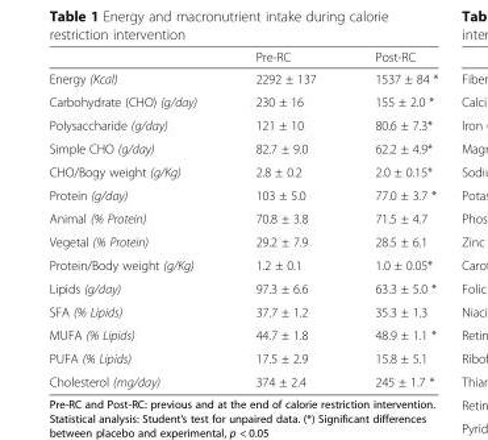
<table><thead><tr><td></td><td>Pre-RC</td><td>Post-RC</td></tr></thead><tbody><tr><td>Energy (Kcal)</td><td>2292 ± 137</td><td>1537 ± 84 *</td></tr><tr><td>Carbohydrate (CHO) (g/day)</td><td>230 ± 16</td><td>155 ± 2.0 *</td></tr><tr><td>Polysaccharide (g/day)</td><td>121 ± 10</td><td>80.6 ± 7.3*</td></tr><tr><td>Simple CHO (g/day)</td><td>82.7 ± 9.0</td><td>62.2 ± 4.9*</td></tr><tr><td>CHO/Bogy weight (g/Kg)</td><td>2.8 ± 0.2</td><td>2.0 ± 0.15*</td></tr><tr><td>Protein (g/day)</td><td>103 ± 5.0</td><td>77.0 ± 3.7 *</td></tr><tr><td>Animal (% Protein)</td><td>70.8 ± 3.8</td><td>71.5 ± 4.7</td></tr><tr><td>Vegetal (% Protein)</td><td>29.2 ± 7.9</td><td>28.5 ± 6.1</td></tr><tr><td>Protein/Body weight (g/Kg)</td><td>1.2 ± 0.1</td><td>1.0 ± 0.05*</td></tr><tr><td>Lipids (g/day)</td><td>97.3 ± 6.6</td><td>63.3 ± 5.0 *</td></tr><tr><td>SFA (% Lipids)</td><td>37.7 ± 1.2</td><td>35.3 ± 1.3</td></tr><tr><td>MUFA (% Lipids)</td><td>44.7 ± 1.8</td><td>48.9 ± 1.1 *</td></tr><tr><td>PUFA (% Lipids)</td><td>17.5 ± 2.9</td><td>15.8 ± 5.1</td></tr><tr><td>Cholesterol (mg/day)</td><td>374 ± 2.4</td><td>245 ± 1.7 *</td></tr></tbody></table>